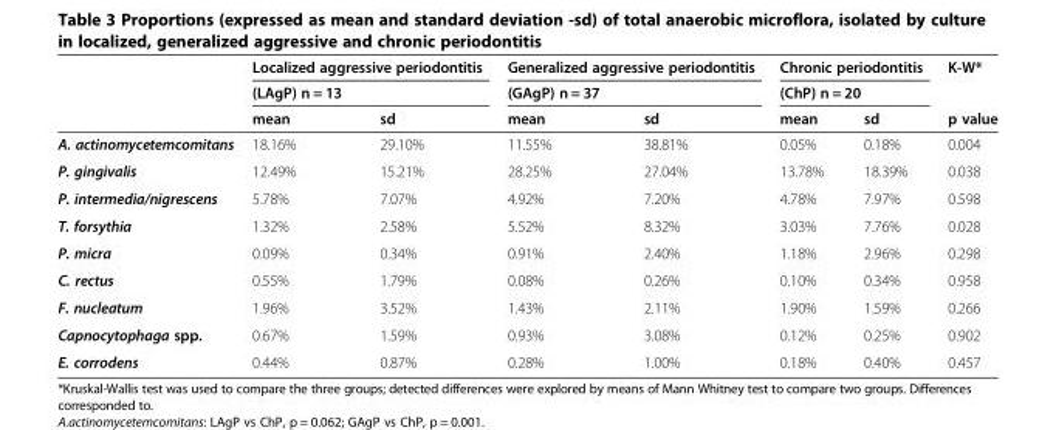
<table><thead><tr><td rowspan="3"></td><td rowspan="2" colspan="2">Localized aggressive periodontitis (LAgP) n = 13</td><td rowspan="2" colspan="2">Generalized aggressive periodontitis (GAgP) n = 37</td><td rowspan="2" colspan="2">Chronic periodontitis (ChP) n = 20</td><td rowspan="3">K-W* p value</td></tr><tr></tr><tr><td>mean</td><td>sd</td><td>mean</td><td>sd</td><td>mean</td><td>sd</td></tr></thead><tbody><tr><td>A. actinomycetemcomitans</td><td>18.16%</td><td>29.10%</td><td>11.55%</td><td>38.81%</td><td>0.05%</td><td>0.18%</td><td>0.004</td></tr><tr><td>P. gingivalis</td><td>12.49%</td><td>15.21%</td><td>28.25%</td><td>27.04%</td><td>13.78%</td><td>18.39%</td><td>0.038</td></tr><tr><td>P. intermedia/nigrescens</td><td>5.78%</td><td>7.07%</td><td>4.92%</td><td>7.20%</td><td>4.78%</td><td>7.97%</td><td>0.598</td></tr><tr><td>T. forsythia</td><td>1.32%</td><td>2.58%</td><td>5.52%</td><td>8.32%</td><td>3.03%</td><td>7.76%</td><td>0.028</td></tr><tr><td>P. micra</td><td>0.09%</td><td>0.34%</td><td>0.91%</td><td>2.40%</td><td>1.18%</td><td>2.96%</td><td>0.298</td></tr><tr><td>C. rectus</td><td>0.55%</td><td>1.79%</td><td>0.08%</td><td>0.26%</td><td>0.10%</td><td>0.34%</td><td>0.958</td></tr><tr><td>F. nucleatum</td><td>1.96%</td><td>3.52%</td><td>1.43%</td><td>2.11%</td><td>1.90%</td><td>1.59%</td><td>0.266</td></tr><tr><td>Capnocytophaga spp.</td><td>0.67%</td><td>1.59%</td><td>0.93%</td><td>3.08%</td><td>0.12%</td><td>0.25%</td><td>0.902</td></tr><tr><td>E. corrodens</td><td>0.44%</td><td>0.87%</td><td>0.28%</td><td>1.00%</td><td>0.18%</td><td>0.40%</td><td>0.457</td></tr></tbody></table>